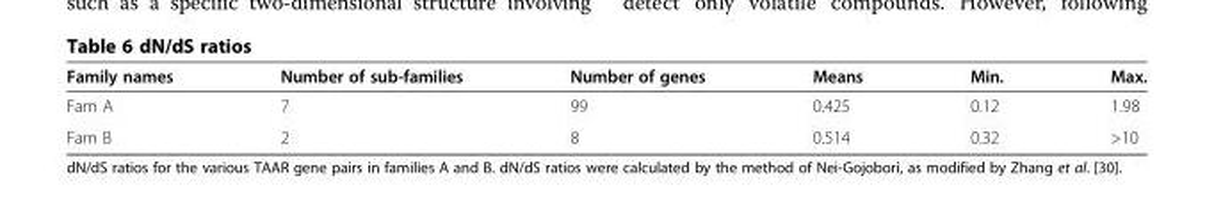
<table><thead><tr><td>Family names</td><td>Number of sub-families</td><td>Number of genes</td><td>Means</td><td>Min.</td><td>Max.</td></tr></thead><tbody><tr><td>Fam A</td><td>7</td><td>99</td><td>0.425</td><td>0.12</td><td>1.98</td></tr><tr><td>Fam B</td><td>2</td><td>8</td><td>0.514</td><td>0.32</td><td>&gt;10</td></tr></tbody></table>